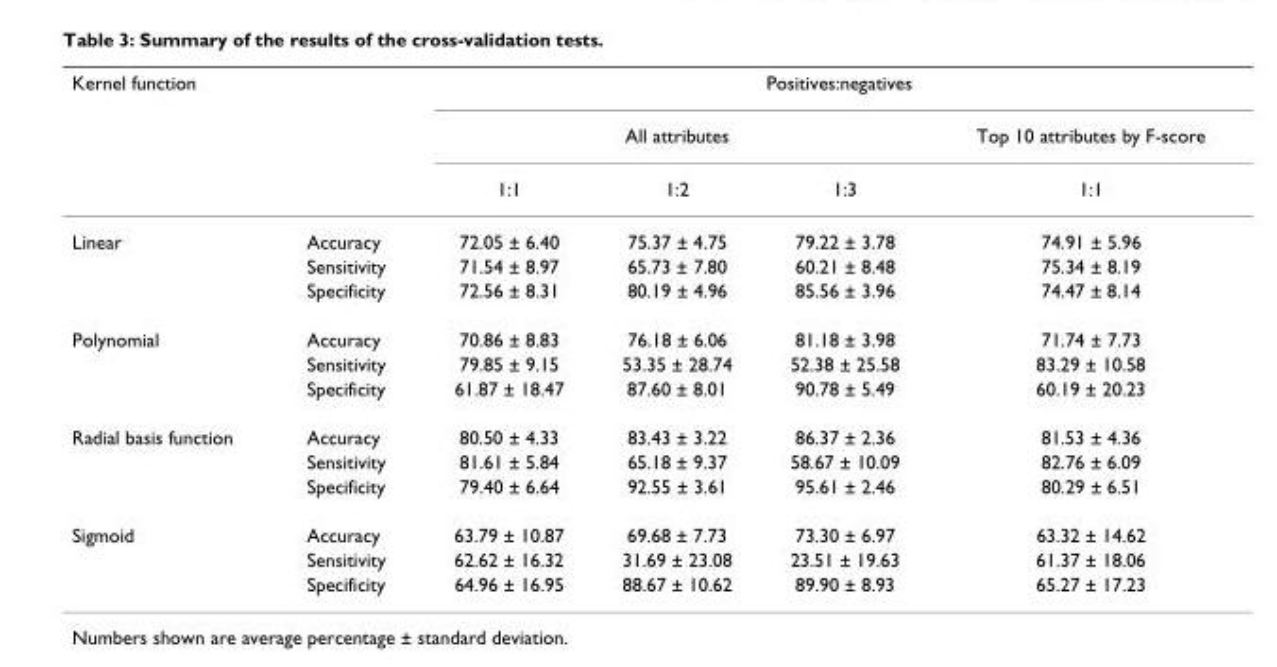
<table><thead><tr><td rowspan="3">Kernel function</td><td rowspan="3"></td><td colspan="4">Positives:negatives</td></tr><tr><td colspan="3">All attributes</td><td rowspan="2">Top 10 attributes by F-score 1:1</td></tr><tr><td>1:1</td><td>1:2</td><td>1:3</td></tr></thead><tbody><tr><td rowspan="3">Linear</td><td>Accuracy</td><td>72.05 ± 6.40</td><td>75.37 ± 4.75</td><td>79.22 ± 3.78</td><td>74.91 ± 5.96</td></tr><tr><td>Sensitivity</td><td>71.54 ± 8.97</td><td>65.73 ± 7.80</td><td>60.21 ± 8.48</td><td>75.34 ± 8.19</td></tr><tr><td>Specificity</td><td>72.56 ± 8.31</td><td>80.19 ± 4.96</td><td>85.56 ± 3.96</td><td>74.47 ± 8.14</td></tr><tr><td rowspan="3">Polynomial</td><td>Accuracy</td><td>70.86 ± 8.83</td><td>76.18 ± 6.06</td><td>81.18 ± 3.98</td><td>71.74 ± 7.73</td></tr><tr><td>Sensitivity</td><td>79.85 ± 9.15</td><td>53.35 ± 28.74</td><td>52.38 ± 25.58</td><td>83.29 ± 10.58</td></tr><tr><td>Specificity</td><td>61.87 ± 18.47</td><td>87.60 ± 8.01</td><td>90.78 ± 5.49</td><td>60.19 ± 20.23</td></tr><tr><td rowspan="3">Radial basis function</td><td>Accuracy</td><td>80.50 ± 4.33</td><td>83.43 ± 3.22</td><td>86.37 ± 2.36</td><td>81.53 ± 4.36</td></tr><tr><td>Sensitivity</td><td>81.61 ± 5.84</td><td>65.18 ± 9.37</td><td>58.67 ± 10.09</td><td>82.76 ± 6.09</td></tr><tr><td>Specificity</td><td>79.40 ± 6.64</td><td>92.55 ± 3.61</td><td>95.61 ± 2.46</td><td>80.29 ± 6.51</td></tr><tr><td rowspan="3">Sigmoid</td><td>Accuracy</td><td>63.79 ± 10.87</td><td>69.68 ± 7.73</td><td>73.30 ± 6.97</td><td>63.32 ± 14.62</td></tr><tr><td>Sensitivity</td><td>62.62 ± 16.32</td><td>31.69 ± 23.08</td><td>23.51 ± 19.63</td><td>61.37 ± 18.06</td></tr><tr><td>Specificity</td><td>64.96 ± 16.95</td><td>88.67 ± 10.62</td><td>89.90 ± 8.93</td><td>65.27 ± 17.23</td></tr></tbody></table>